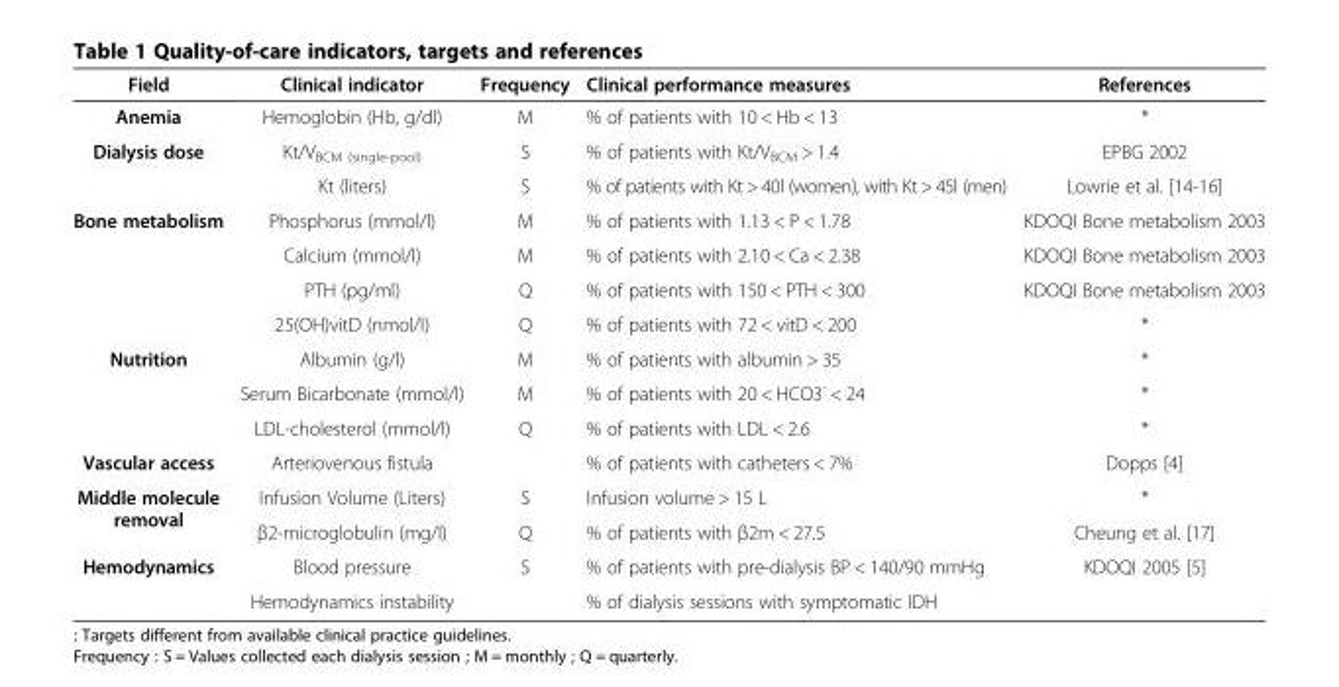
<table><thead><tr><td>Field</td><td>Clinical indicator</td><td>Frequency</td><td>Clinical performance measures</td><td>References</td></tr></thead><tbody><tr><td>Anemia</td><td>Hemoglobin (Hb, g/dl)</td><td>M</td><td>% of patients with 10 &lt; Hb &lt; 13</td><td>*</td></tr><tr><td rowspan="2">Dialysis dose</td><td>Kt/V<sub>BCM (single-pool)</sub></td><td>S</td><td>% of patients with Kt/V<sub>BCM</sub> &gt; 1.4</td><td>EPBG 2002</td></tr><tr><td>Kt (liters)</td><td>S</td><td>% of patients with Kt &gt; 40l (women), with Kt &gt; 45l (men)</td><td>Lowrie et al. [14-16]</td></tr><tr><td rowspan="4">Bone metabolism</td><td>Phosphorus (mmol/l)</td><td>M</td><td>% of patients with 1.13 &lt; P &lt; 1.78</td><td>KDOQI Bone metabolism 2003</td></tr><tr><td>Calcium (mmol/l)</td><td>M</td><td>% of patients with 2.10 &lt; Ca &lt; 2.38</td><td>KDOQI Bone metabolism 2003</td></tr><tr><td>PTH (pg/ml)</td><td>Q</td><td>% of patients with 150 &lt; PTH &lt; 300</td><td>KDOQI Bone metabolism 2003</td></tr><tr><td>25(OH)vitD (nmol/l)</td><td>Q</td><td>% of patients with 72 &lt; vitD &lt; 200</td><td>*</td></tr><tr><td rowspan="3">Nutrition</td><td>Albumin (g/l)</td><td>M</td><td>% of patients with albumin &gt; 35</td><td>*</td></tr><tr><td>Serum Bicarbonate (mmol/l)</td><td>M</td><td>% of patients with 20 &lt; HCO3<sup>-</sup> &lt; 24</td><td>*</td></tr><tr><td>LDL-cholesterol (mmol/l)</td><td>Q</td><td>% of patients with LDL &lt; 2.6</td><td>*</td></tr><tr><td>Vascular access</td><td>Arteriovenous fistula</td><td></td><td>% of patients with catheters &lt; 7%</td><td>Dopps [4]</td></tr><tr><td rowspan="2">Middle molecule removal</td><td>Infusion Volume (Liters)</td><td>S</td><td>Infusion volume &gt; 15 L</td><td>*</td></tr><tr><td>β2-microglobulin (mg/l)</td><td>Q</td><td>% of patients with β2m &lt; 27.5</td><td>Cheung et al. [17]</td></tr><tr><td rowspan="2">Hemodynamics</td><td>Blood pressure</td><td>S</td><td>% of patients with pre-dialysis BP &lt; 140/90 mmHg</td><td>KDOQI 2005 [5]</td></tr><tr><td>Hemodynamics instability</td><td></td><td>% of dialysis sessions with symptomatic IDH</td><td></td></tr></tbody></table>